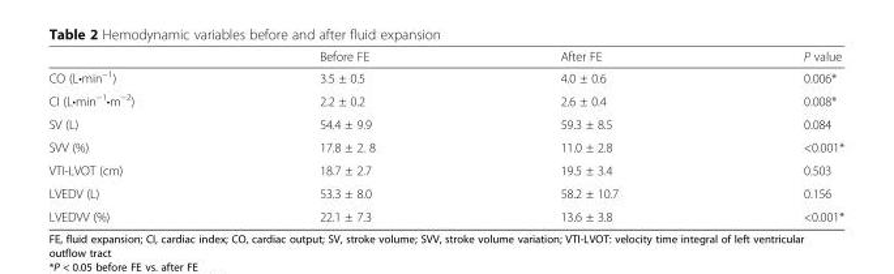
<table><thead><tr><td></td><td>Before FE</td><td>After FE</td><td>P value</td></tr></thead><tbody><tr><td>CO (L•min<sup>−1</sup>)</td><td>3.5 ± 0.5</td><td>4.0 ± 0.6</td><td>0.006*</td></tr><tr><td>CI (L•min<sup>−1</sup>•m<sup>−2</sup>)</td><td>2.2 ± 0.2</td><td>2.6 ± 0.4</td><td>0.008*</td></tr><tr><td>SV (L)</td><td>54.4 ± 9.9</td><td>59.3 ± 8.5</td><td>0.084</td></tr><tr><td>SVV (%)</td><td>17.8 ± 2. 8</td><td>11.0 ± 2.8</td><td>&lt;0.001*</td></tr><tr><td>VTI-LVOT (cm)</td><td>18.7 ± 2.7</td><td>19.5 ± 3.4</td><td>0.503</td></tr><tr><td>LVEDV (L)</td><td>53.3 ± 8.0</td><td>58.2 ± 10.7</td><td>0.156</td></tr><tr><td>LVEDVV (%)</td><td>22.1 ± 7.3</td><td>13.6 ± 3.8</td><td>&lt;0.001*</td></tr></tbody></table>